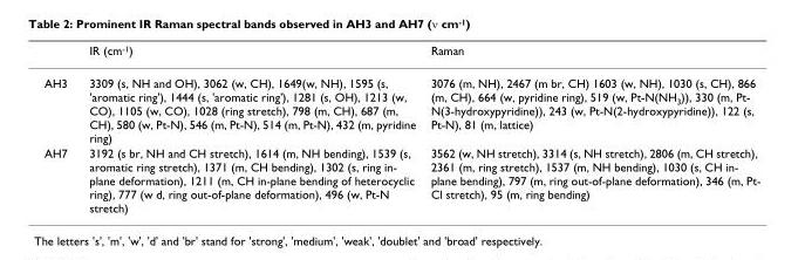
<table><thead><tr><td></td><td>IR (cm<sup>-1</sup>)</td><td>Raman</td></tr></thead><tbody><tr><td>AH3</td><td>3309 (s, NH and OH), 3062 (w, CH), 1649(w, NH), 1595 (s, &#x27;aromatic ring&#x27;), 1444 (s, &#x27;aromatic ring&#x27;), 1281 (s, OH), 1213 (w, CO), 1105 (w, CO), 1028 (ring stretch), 798 (m, CH), 687 (m, CH), 580 (w, Pt-N), 546 (m, Pt-N), 514 (m, Pt-N), 432 (m, pyridine ring)</td><td>3076 (m, NH), 2467 (m br, CH) 1603 (w, NH), 1030 (s, CH), 866 (m, CH), 664 (w, pyridine ring), 519 (w, Pt-N(NH<sub>3</sub>)), 330 (m, Pt- N(3-hydroxypyridine)), 243 (w, Pt-N(2-hydroxypyridine)), 122 (s, Pt-N), 81 (m, lattice)</td></tr><tr><td>AH7</td><td>3192 (s br, NH and CH stretch), 1614 (m, NH bending), 1539 (s, aromatic ring stretch), 1371 (m, CH bending), 1302 (s, ring in- plane deformation), 1211 (m, CH in-plane bending of heterocyclic ring), 777 (w d, ring out-of-plane deformation), 496 (w, Pt-N stretch)</td><td>3562 (w, NH stretch), 3314 (s, NH stretch), 2806 (m, CH stretch), 2361 (m, ring stretch), 1537 (m, NH bending), 1030 (s, CH in- plane bending), 797 (m, ring out-of-plane deformation), 346 (m, Pt- Cl stretch), 95 (m, ring bending)</td></tr></tbody></table>